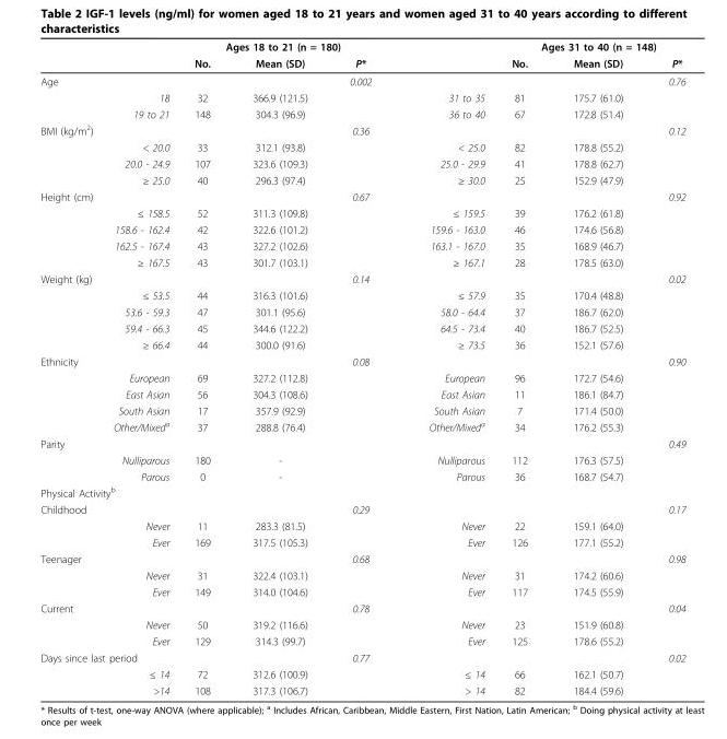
<table><thead><tr><td rowspan="2"></td><td colspan="3">Ages 18 to 21 (n = 180)</td><td rowspan="2"></td><td colspan="3">Ages 31 to 40 (n = 148)</td></tr><tr><td>No.</td><td>Mean (SD)</td><td>P*</td><td>No.</td><td>Mean (SD)</td><td>P*</td></tr></thead><tbody><tr><td>Age</td><td></td><td></td><td>0.002</td><td></td><td></td><td></td><td>0.76</td></tr><tr><td>18</td><td>32</td><td>366.9 (121.5)</td><td></td><td>31 to 35</td><td>81</td><td>175.7 (61.0)</td><td></td></tr><tr><td>19 to 21</td><td>148</td><td>304.3 (96.9)</td><td></td><td>36 to 40</td><td>67</td><td>172.8 (51.4)</td><td></td></tr><tr><td>BMI (kg/m<sup>2</sup>)</td><td></td><td></td><td>0.36</td><td></td><td></td><td></td><td>0.12</td></tr><tr><td>&lt; 20.0</td><td>33</td><td>312.1 (93.8)</td><td></td><td>&lt; 25.0</td><td>82</td><td>178.8 (55.2)</td><td></td></tr><tr><td>20.0 - 24.9</td><td>107</td><td>323.6 (109.3)</td><td></td><td>25.0 - 29.9</td><td>41</td><td>178.8 (62.7)</td><td></td></tr><tr><td>≥ 25.0</td><td>40</td><td>296.3 (97.4)</td><td></td><td>≥ 30.0</td><td>25</td><td>152.9 (47.9)</td><td></td></tr><tr><td>Height (cm)</td><td></td><td></td><td>0.67</td><td></td><td></td><td></td><td>0.92</td></tr><tr><td>≤ 158.5</td><td>52</td><td>311.3 (109.8)</td><td></td><td>≤ 159.5</td><td>39</td><td>176.2 (61.8)</td><td></td></tr><tr><td>158.6 - 162.4</td><td>42</td><td>322.6 (101.2)</td><td></td><td>159.6 - 163.0</td><td>46</td><td>174.6 (56.8)</td><td></td></tr><tr><td>162.5 - 167.4</td><td>43</td><td>327.2 (102.6)</td><td></td><td>163.1 - 167.0</td><td>35</td><td>168.9 (46.7)</td><td></td></tr><tr><td>≥ 167.5</td><td>43</td><td>301.7 (103.1)</td><td></td><td>≥ 167.1</td><td>28</td><td>178.5 (63.0)</td><td></td></tr><tr><td>Weight (kg)</td><td></td><td></td><td>0.14</td><td></td><td></td><td></td><td>0.02</td></tr><tr><td>≤ 53.5</td><td>44</td><td>316.3 (101.6)</td><td></td><td>≤ 57.9</td><td>35</td><td>170.4 (48.8)</td><td></td></tr><tr><td>53.6 - 59.3</td><td>47</td><td>301.1 (95.6)</td><td></td><td>58.0 - 64.4</td><td>37</td><td>186.7 (62.0)</td><td></td></tr><tr><td>59.4 - 66.3</td><td>45</td><td>344.6 (122.2)</td><td></td><td>64.5 - 73.4</td><td>40</td><td>186.7 (52.5)</td><td></td></tr><tr><td>≥ 66.4</td><td>44</td><td>300.0 (91.6)</td><td></td><td>≥ 73.5</td><td>36</td><td>152.1 (57.6)</td><td></td></tr><tr><td>Ethnicity</td><td></td><td></td><td>0.08</td><td></td><td></td><td></td><td>0.90</td></tr><tr><td>European</td><td>69</td><td>327.2 (112.8)</td><td></td><td>European</td><td>96</td><td>172.7 (54.6)</td><td></td></tr><tr><td>East Asian</td><td>56</td><td>304.3 (108.6)</td><td></td><td>East Asian</td><td>11</td><td>186.1 (84.7)</td><td></td></tr><tr><td>South Asian</td><td>17</td><td>357.9 (92.9)</td><td></td><td>South Asian</td><td>7</td><td>171.4 (50.0)</td><td></td></tr><tr><td>Other/Mixed<sup>a</sup></td><td>37</td><td>288.8 (76.4)</td><td></td><td>Other/Mixed<sup>a</sup></td><td>34</td><td>176.2 (55.3)</td><td></td></tr><tr><td>Parity</td><td></td><td></td><td></td><td></td><td></td><td></td><td>0.49</td></tr><tr><td>Nulliparous</td><td>180</td><td>-</td><td></td><td>Nulliparous</td><td>112</td><td>176.3 (57.5)</td><td></td></tr><tr><td>Parous</td><td>0</td><td>-</td><td></td><td>Parous</td><td>36</td><td>168.7 (54.7)</td><td></td></tr><tr><td colspan="8">Physical Activity<sup>b</sup></td></tr><tr><td>Childhood</td><td></td><td></td><td>0.29</td><td></td><td></td><td></td><td>0.17</td></tr><tr><td>Never</td><td>11</td><td>283.3 (81.5)</td><td></td><td>Never</td><td>22</td><td>159.1 (64.0)</td><td></td></tr><tr><td>Ever</td><td>169</td><td>317.5 (105.3)</td><td></td><td>Ever</td><td>126</td><td>177.1 (55.2)</td><td></td></tr><tr><td>Teenager</td><td></td><td></td><td>0.68</td><td></td><td></td><td></td><td>0.98</td></tr><tr><td>Never</td><td>31</td><td>322.4 (103.1)</td><td></td><td>Never</td><td>31</td><td>174.2 (60.6)</td><td></td></tr><tr><td>Ever</td><td>149</td><td>314.0 (104.6)</td><td></td><td>Ever</td><td>117</td><td>174.5 (55.9)</td><td></td></tr><tr><td>Current</td><td></td><td></td><td>0.78</td><td></td><td></td><td></td><td>0.04</td></tr><tr><td>Never</td><td>50</td><td>319.2 (116.6)</td><td></td><td>Never</td><td>23</td><td>151.9 (60.8)</td><td></td></tr><tr><td>Ever</td><td>129</td><td>314.3 (99.7)</td><td></td><td>Ever</td><td>125</td><td>178.6 (55.2)</td><td></td></tr><tr><td>Days since last period</td><td></td><td></td><td>0.77</td><td></td><td></td><td></td><td>0.02</td></tr><tr><td>≤ 14</td><td>72</td><td>312.6 (100.9)</td><td></td><td>≤ 14</td><td>66</td><td>162.1 (50.7)</td><td></td></tr><tr><td>&gt;14</td><td>108</td><td>317.3 (106.7)</td><td></td><td>&gt; 14</td><td>82</td><td>184.4 (59.6)</td><td></td></tr></tbody></table>